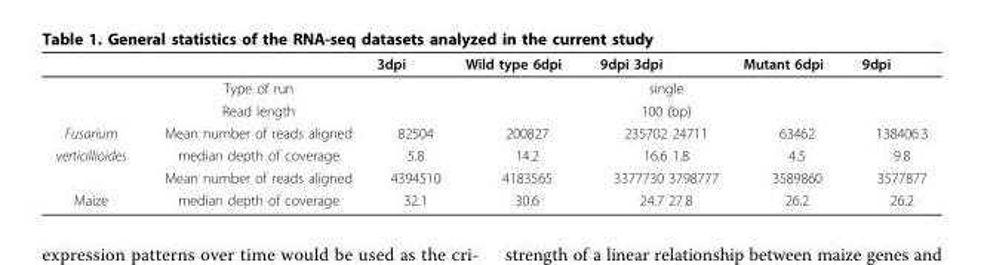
<table><thead><tr><td></td><td></td><td>3dpi</td><td>Wild type 6dpi</td><td>9dpi 3dpi</td><td>Mutant 6dpi</td><td>9dpi</td></tr></thead><tbody><tr><td></td><td>Type of run</td><td></td><td></td><td>single</td><td></td><td></td></tr><tr><td></td><td>Read length</td><td></td><td></td><td>100 (bp)</td><td></td><td></td></tr><tr><td>Fusarium</td><td>Mean number of reads aligned</td><td>82504</td><td>200827</td><td>235702 24711</td><td>63462</td><td>138406.3</td></tr><tr><td rowspan="2">verticillioides</td><td>median depth of coverage</td><td>5.8</td><td>14.2</td><td>16.6 1.8</td><td>4.5</td><td>9.8</td></tr><tr><td>Mean number of reads aligned</td><td>4394510</td><td>4183565</td><td>3377730 3798777</td><td>3589860</td><td>3577877</td></tr><tr><td>Maize</td><td>median depth of coverage</td><td>32.1</td><td>30.6</td><td>24.7 27.8</td><td>26.2</td><td>26.2</td></tr></tbody></table>